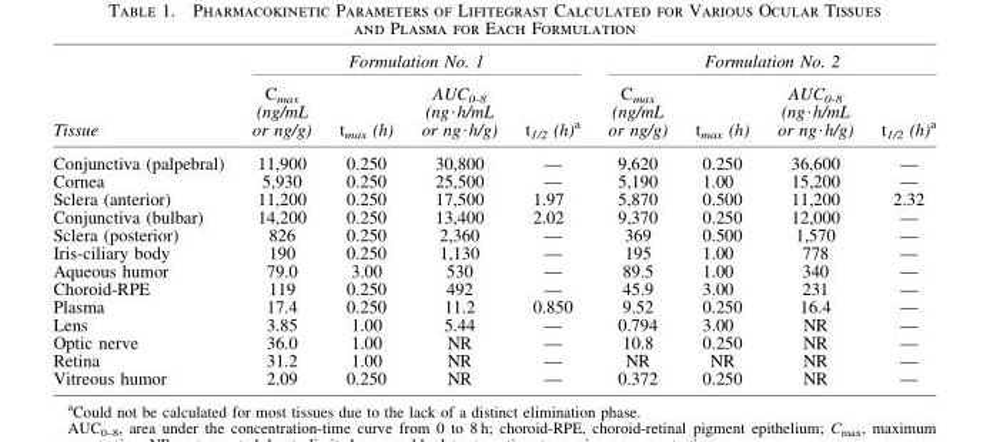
<table><thead><tr><td rowspan="2">Tissue</td><td colspan="4">Formulation No. 1</td><td colspan="4">Formulation No. 2</td></tr><tr><td>C<sub>max</sub> (ng/mL or ng/g)</td><td>t<sub>max</sub> (h)</td><td>AUC<sub>0-8</sub> (ng·h/mL or ng·h/g)</td><td>t<sub>1/2</sub> (h)<sup>a</sup></td><td>C<sub>max</sub> (ng/mL or ng/g)</td><td>t<sub>max</sub> (h)</td><td>AUC<sub>0-8</sub> (ng·h/mL or ng·h/g)</td><td>t<sub>1/2</sub> (h)<sup>a</sup></td></tr></thead><tbody><tr><td>Conjunctiva (palpebral)</td><td>11,900</td><td>0.250</td><td>30,800</td><td>—</td><td>9,620</td><td>0.250</td><td>36,600</td><td>—</td></tr><tr><td>Cornea</td><td>5,930</td><td>0.250</td><td>25,500</td><td>—</td><td>5,190</td><td>1.00</td><td>15,200</td><td>—</td></tr><tr><td>Sclera (anterior)</td><td>11,200</td><td>0.250</td><td>17,500</td><td>1.97</td><td>5,870</td><td>0.500</td><td>11,200</td><td>2.32</td></tr><tr><td>Conjunctiva (bulbar)</td><td>14,200</td><td>0.250</td><td>13,400</td><td>2.02</td><td>9,370</td><td>0.250</td><td>12,000</td><td>—</td></tr><tr><td>Sclera (posterior)</td><td>826</td><td>0.250</td><td>2,360</td><td>—</td><td>369</td><td>0.500</td><td>1,570</td><td>—</td></tr><tr><td>Iris-ciliary body</td><td>190</td><td>0.250</td><td>1,130</td><td>—</td><td>195</td><td>1.00</td><td>778</td><td>—</td></tr><tr><td>Aqueous humor</td><td>79.0</td><td>3.00</td><td>530</td><td>—</td><td>89.5</td><td>1.00</td><td>340</td><td>—</td></tr><tr><td>Choroid-RPE</td><td>119</td><td>0.250</td><td>492</td><td>—</td><td>45.9</td><td>3.00</td><td>231</td><td>—</td></tr><tr><td>Plasma</td><td>17.4</td><td>0.250</td><td>11.2</td><td>0.850</td><td>9.52</td><td>0.250</td><td>16.4</td><td>—</td></tr><tr><td>Lens</td><td>3.85</td><td>1.00</td><td>5.44</td><td>—</td><td>0.794</td><td>3.00</td><td>NR</td><td>—</td></tr><tr><td>Optic nerve</td><td>36.0</td><td>1.00</td><td>NR</td><td>—</td><td>10.8</td><td>0.250</td><td>NR</td><td>—</td></tr><tr><td>Retina</td><td>31.2</td><td>1.00</td><td>NR</td><td>—</td><td>NR</td><td>NR</td><td>NR</td><td>—</td></tr><tr><td>Vitreous humor</td><td>2.09</td><td>0.250</td><td>NR</td><td>—</td><td>0.372</td><td>0.250</td><td>NR</td><td>—</td></tr></tbody></table>